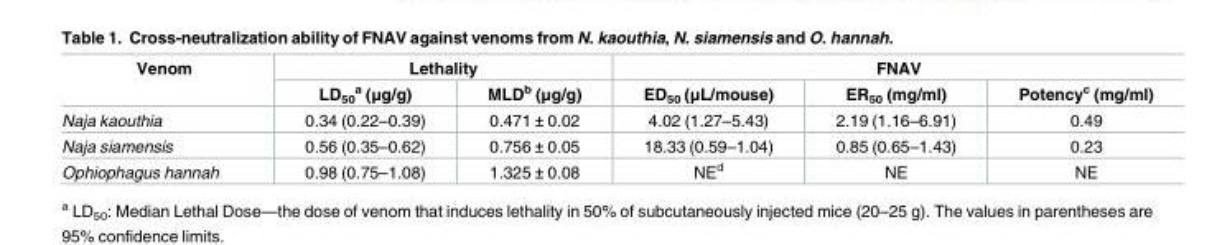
<table><thead><tr><td rowspan="2">Venom</td><td colspan="2">Lethality</td><td colspan="3">FNAV</td></tr><tr><td>LD<sub>50</sub> <sup>a</sup> (μg/g)</td><td>MLD<sup>b</sup> (μg/g)</td><td>ED<sub>50</sub> (μL/mouse)</td><td>ER<sub>50</sub> (mg/ml)</td><td>Potency<sup>c</sup> (mg/ml)</td></tr></thead><tbody><tr><td>Naja kaouthia</td><td>0.34 (0.22–0.39)</td><td>0.471 ± 0.02</td><td>4.02 (1.27–5.43)</td><td>2.19 (1.16–6.91)</td><td>0.49</td></tr><tr><td>Naja siamensis</td><td>0.56 (0.35–0.62)</td><td>0.756 ± 0.05</td><td>18.33 (0.59–1.04)</td><td>0.85 (0.65–1.43)</td><td>0.23</td></tr><tr><td>Ophiophagus hannah</td><td>0.98 (0.75–1.08)</td><td>1.325 ± 0.08</td><td>NE<sup>d</sup></td><td>NE</td><td>NE</td></tr></tbody></table>